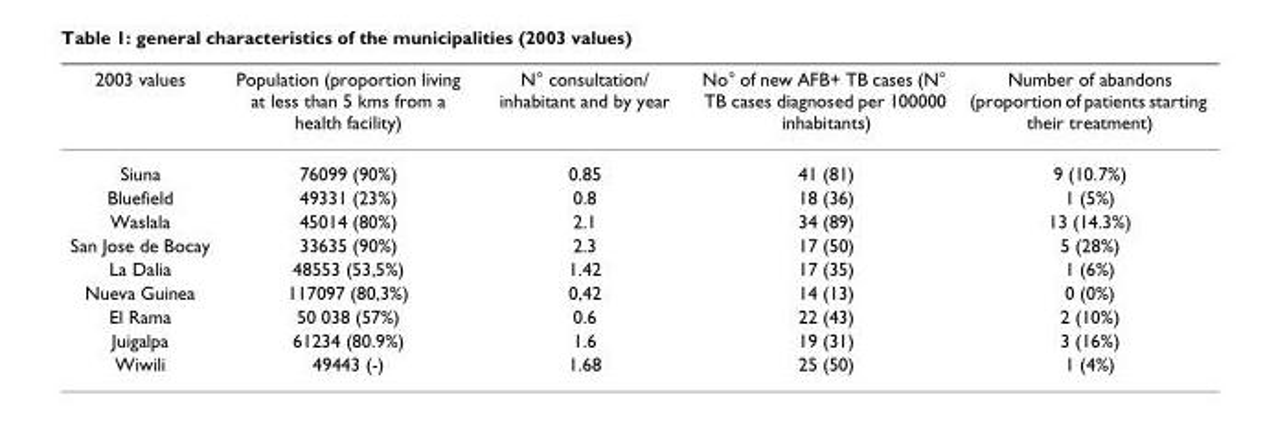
<table><thead><tr><td>2003 values</td><td>Population (proportion living at less than 5 kms from a health facility)</td><td>N° consultation/ inhabitant and by year</td><td>No° of new AFB+ TB cases (N° TB cases diagnosed per 100000 inhabitants)</td><td>Number of abandons (proportion of patients starting their treatment)</td></tr></thead><tbody><tr><td>Siuna</td><td>76099 (90%)</td><td>0.85</td><td>41 (81)</td><td>9 (10.7%)</td></tr><tr><td>Bluefield</td><td>49331 (23%)</td><td>0.8</td><td>18 (36)</td><td>1 (5%)</td></tr><tr><td>Waslala</td><td>45014 (80%)</td><td>2.1</td><td>34 (89)</td><td>13 (14.3%)</td></tr><tr><td>San Jose de Bocay</td><td>33635 (90%)</td><td>2.3</td><td>17 (50)</td><td>5 (28%)</td></tr><tr><td>La Dalia</td><td>48553 (53,5%)</td><td>1.42</td><td>17 (35)</td><td>1 (6%)</td></tr><tr><td>Nueva Guinea</td><td>117097 (80,3%)</td><td>0,42</td><td>14 (13)</td><td>0 (0%)</td></tr><tr><td>El Rama</td><td>50 038 (57%)</td><td>0.6</td><td>22 (43)</td><td>2 (10%)</td></tr><tr><td>Juigalpa</td><td>61234 (80.9%)</td><td>1.6</td><td>19 (31)</td><td>3 (16%)</td></tr><tr><td>Wiwili</td><td>49443 (-)</td><td>1.68</td><td>25 (50)</td><td>1 (4%)</td></tr></tbody></table>